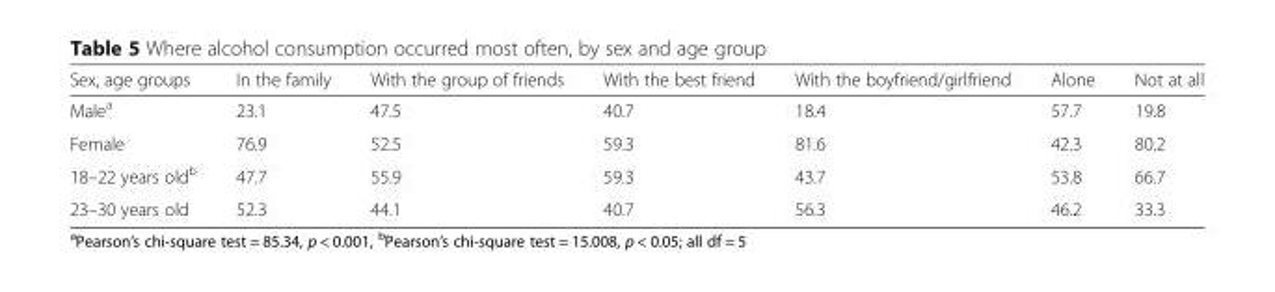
<table><thead><tr><td>Sex, age groups</td><td>In the family</td><td>With the group of friends</td><td>With the best friend</td><td>With the boyfriend/girlfriend</td><td>Alone</td><td>Not at all</td></tr></thead><tbody><tr><td>Male<sup>a</sup></td><td>23.1</td><td>47.5</td><td>40.7</td><td>18.4</td><td>57.7</td><td>19.8</td></tr><tr><td>Female</td><td>76.9</td><td>52.5</td><td>59.3</td><td>81.6</td><td>42.3</td><td>80.2</td></tr><tr><td>18–22 years old<sup>b</sup></td><td>47.7</td><td>55.9</td><td>59.3</td><td>43.7</td><td>53.8</td><td>66.7</td></tr><tr><td>23–30 years old</td><td>52.3</td><td>44.1</td><td>40.7</td><td>56.3</td><td>46.2</td><td>33.3</td></tr></tbody></table>